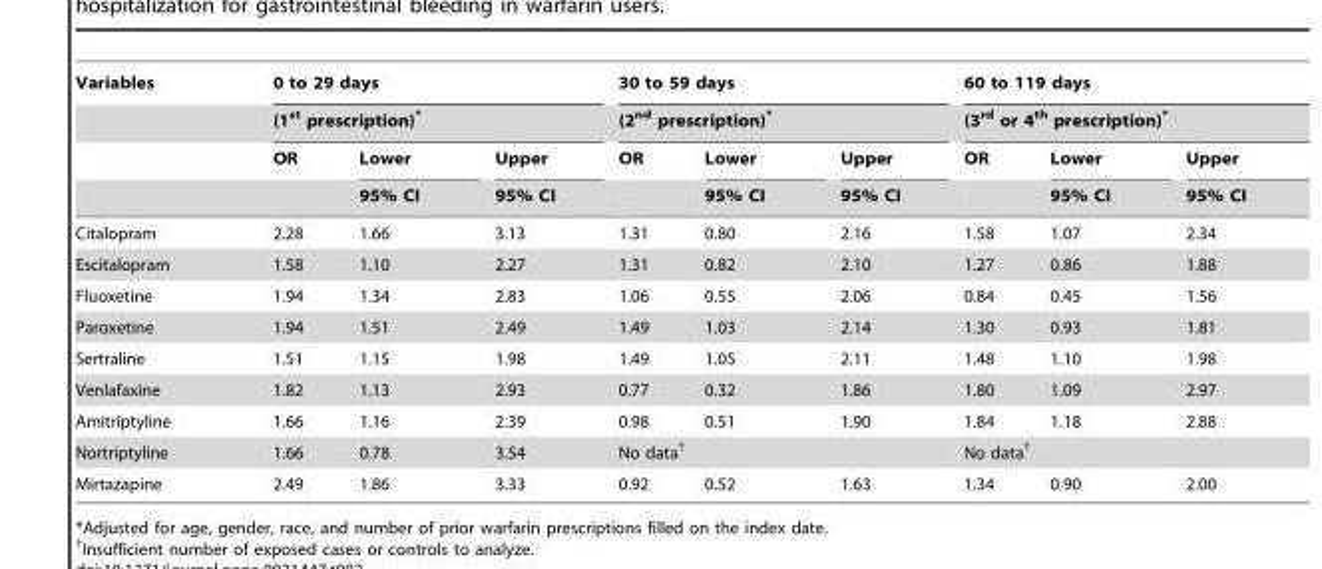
<table><thead><tr><td rowspan="4">Variables</td><td rowspan="2" colspan="3">0 to 29 days (1<sup>st</sup> prescription)*</td><td rowspan="2" colspan="3">30 to 59 days (2<sup>nd</sup> prescription)*</td><td rowspan="2" colspan="3">60 to 119 days (3<sup>rd</sup> or 4<sup>th</sup> prescription)*</td></tr><tr></tr><tr><td rowspan="2">OR</td><td rowspan="2">Lower 95% CI</td><td rowspan="2">Upper 95% CI</td><td rowspan="2">OR</td><td rowspan="2">Lower 95% CI</td><td rowspan="2">Upper 95% CI</td><td rowspan="2">OR</td><td rowspan="2">Lower 95% CI</td><td rowspan="2">Upper 95% CI</td></tr><tr></tr></thead><tbody><tr><td>Citalopram</td><td>2.28</td><td>1.66</td><td>3.13</td><td>1.31</td><td>0.80</td><td>2.16</td><td>1.58</td><td>1.07</td><td>2.34</td></tr><tr><td>Escitalopram</td><td>1.58</td><td>1.10</td><td>2.27</td><td>1.31</td><td>0.82</td><td>2.10</td><td>1.27</td><td>0.86</td><td>1.88</td></tr><tr><td>Fluoxetine</td><td>1.94</td><td>1.34</td><td>2.83</td><td>1.06</td><td>0.55</td><td>2.06</td><td>0.84</td><td>0.45</td><td>1.56</td></tr><tr><td>Paroxetine</td><td>1.94</td><td>1.51</td><td>2.49</td><td>1.49</td><td>1.03</td><td>2.14</td><td>1.30</td><td>0.93</td><td>1.81</td></tr><tr><td>Sertraline</td><td>1.51</td><td>1.15</td><td>1.98</td><td>1.49</td><td>1.05</td><td>2.11</td><td>1.48</td><td>1.10</td><td>1.98</td></tr><tr><td>Venlafaxine</td><td>1.82</td><td>1.13</td><td>2.93</td><td>0.77</td><td>0.32</td><td>1.86</td><td>1.80</td><td>1.09</td><td>2.97</td></tr><tr><td>Amitriptyline</td><td>1.66</td><td>1.16</td><td>2.39</td><td>0.98</td><td>0.51</td><td>1.90</td><td>1.84</td><td>1.18</td><td>2.88</td></tr><tr><td>Nortriptyline</td><td>1.66</td><td>0.78</td><td>3.54</td><td colspan="3">No data†</td><td colspan="3">No data†</td></tr><tr><td>Mirtazapine</td><td>2.49</td><td>1.86</td><td>3.33</td><td>0.92</td><td>0.52</td><td>1.63</td><td>1.34</td><td>0.90</td><td>2.00</td></tr></tbody></table>